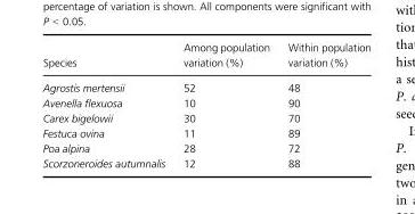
<table><thead><tr><td>Species</td><td>Among population variation (%)</td><td>Within population variation (%)</td></tr></thead><tbody><tr><td>Agrostis mertensii</td><td>52</td><td>48</td></tr><tr><td>Avenella flexuosa</td><td>10</td><td>90</td></tr><tr><td>Carex bigelowii</td><td>30</td><td>70</td></tr><tr><td>Festuca ovina</td><td>11</td><td>89</td></tr><tr><td>Poa alpina</td><td>28</td><td>72</td></tr><tr><td>Scorzoneroides autumnalis</td><td>12</td><td>88</td></tr></tbody></table>